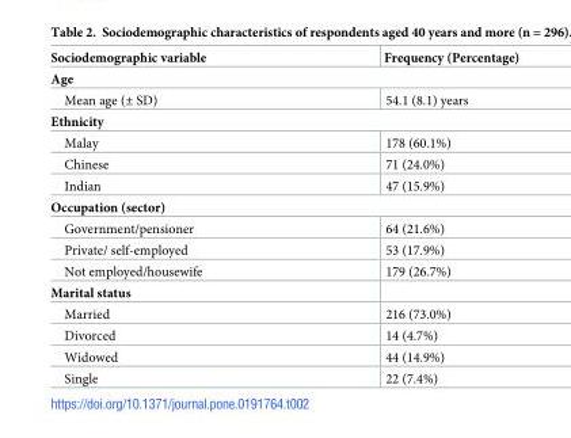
<table><thead><tr><td>Sociodemographic variable</td><td>Frequency (Percentage)</td></tr></thead><tbody><tr><td colspan="2">Age</td></tr><tr><td>Mean age (± SD)</td><td>54.1 (8.1) years</td></tr><tr><td colspan="2">Ethnicity</td></tr><tr><td>Malay</td><td>178 (60.1%)</td></tr><tr><td>Chinese</td><td>71 (24.0%)</td></tr><tr><td>Indian</td><td>47 (15.9%)</td></tr><tr><td colspan="2">Occupation (sector)</td></tr><tr><td>Government/pensioner</td><td>64 (21.6%)</td></tr><tr><td>Private/ self-employed</td><td>53 (17.9%)</td></tr><tr><td>Not employed/housewife</td><td>179 (26.7%)</td></tr><tr><td colspan="2">Marital status</td></tr><tr><td>Married</td><td>216 (73.0%)</td></tr><tr><td>Divorced</td><td>14 (4.7%)</td></tr><tr><td>Widowed</td><td>44 (14.9%)</td></tr><tr><td>Single</td><td>22 (7.4%)</td></tr></tbody></table>